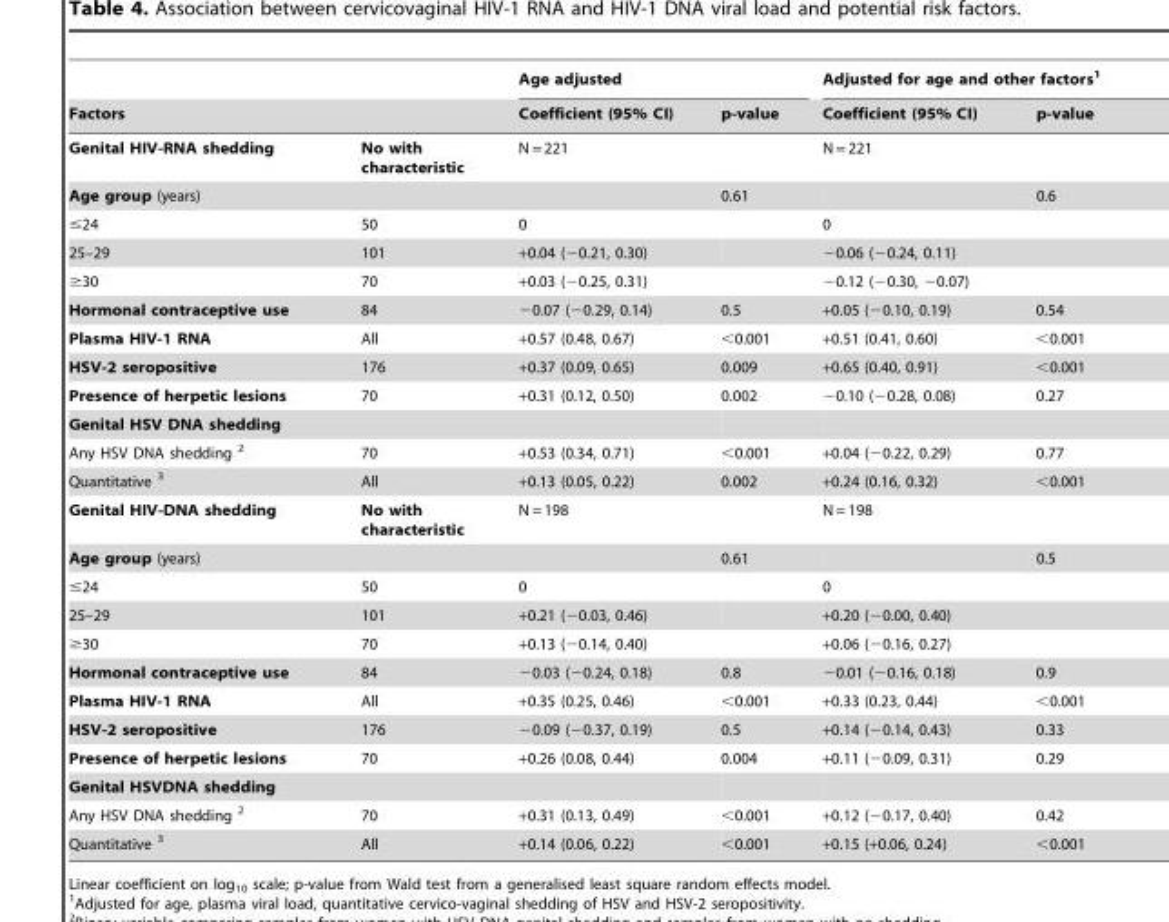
<table><thead><tr><td rowspan="2">Factors</td><td rowspan="2"></td><td colspan="2">Age adjusted</td><td colspan="2">Adjusted for age and other factors<sup>1</sup></td></tr><tr><td>Coefficient (95% CI)</td><td>p-value</td><td>Coefficient (95% CI)</td><td>p-value</td></tr></thead><tbody><tr><td>Genital HIV-RNA shedding</td><td>No with characteristic</td><td>N = 221</td><td></td><td>N = 221</td><td></td></tr><tr><td>Age group (years)</td><td></td><td></td><td>0.61</td><td></td><td>0.6</td></tr><tr><td>≤24</td><td>50</td><td>0</td><td></td><td>0</td><td></td></tr><tr><td>25–29</td><td>101</td><td>+0.04 (−0.21, 0.30)</td><td></td><td>−0.06 (−0.24, 0.11)</td><td></td></tr><tr><td>≥30</td><td>70</td><td>+0.03 (−0.25, 0.31)</td><td></td><td>−0.12 (−0.30, −0.07)</td><td></td></tr><tr><td>Hormonal contraceptive use</td><td>84</td><td>−0.07 (−0.29, 0.14)</td><td>0.5</td><td>+0.05 (−0.10, 0.19)</td><td>0.54</td></tr><tr><td>Plasma HIV-1 RNA</td><td>All</td><td>+0.57 (0.48, 0.67)</td><td>&lt;0.001</td><td>+0.51 (0.41, 0.60)</td><td>&lt;0.001</td></tr><tr><td>HSV-2 seropositive</td><td>176</td><td>+0.37 (0.09, 0.65)</td><td>0.009</td><td>+0.65 (0.40, 0.91)</td><td>&lt;0.001</td></tr><tr><td>Presence of herpetic lesions</td><td>70</td><td>+0.31 (0.12, 0.50)</td><td>0.002</td><td>−0.10 (−0.28, 0.08)</td><td>0.27</td></tr><tr><td colspan="6">Genital HSV DNA shedding</td></tr><tr><td>Any HSV DNA shedding 2</td><td>70</td><td>+0.53 (0.34, 0.71)</td><td>&lt;0.001</td><td>+0.04 (−0.22, 0.29)</td><td>0.77</td></tr><tr><td>Quantitative 3</td><td>All</td><td>+0.13 (0.05, 0.22)</td><td>0.002</td><td>+0.24 (0.16, 0.32)</td><td>&lt;0.001</td></tr><tr><td>Genital HIV-DNA shedding</td><td>No with characteristic</td><td>N = 198</td><td></td><td>N = 198</td><td></td></tr><tr><td>Age group (years)</td><td></td><td></td><td>0.61</td><td></td><td>0.5</td></tr><tr><td>≤24</td><td>50</td><td>0</td><td></td><td>0</td><td></td></tr><tr><td>25–29</td><td>101</td><td>+0.21 (−0.03, 0.46)</td><td></td><td>+0.20 (−0.00, 0.40)</td><td></td></tr><tr><td>≥30</td><td>70</td><td>+0.13 (−0.14, 0.40)</td><td></td><td>+0.06 (−0.16, 0.27)</td><td></td></tr><tr><td>Hormonal contraceptive use</td><td>84</td><td>−0.03 (−0.24, 0.18)</td><td>0.8</td><td>−0.01 (−0.16, 0.18)</td><td>0.9</td></tr><tr><td>Plasma HIV-1 RNA</td><td>All</td><td>+0.35 (0.25, 0.46)</td><td>&lt;0.001</td><td>+0.33 (0.23, 0.44)</td><td>&lt;0.001</td></tr><tr><td>HSV-2 seropositive</td><td>176</td><td>−0.09 (−0.37, 0.19)</td><td>0.5</td><td>+0.14 (−0.14, 0.43)</td><td>0.33</td></tr><tr><td>Presence of herpetic lesions</td><td>70</td><td>+0.26 (0.08, 0.44)</td><td>0.004</td><td>+0.11 (−0.09, 0.31)</td><td>0.29</td></tr><tr><td colspan="6">Genital HSVDNA shedding</td></tr><tr><td>Any HSV DNA shedding 2</td><td>70</td><td>+0.31 (0.13, 0.49)</td><td>&lt;0.001</td><td>+0.12 (−0.17, 0.40)</td><td>0.42</td></tr><tr><td>Quantitative 3</td><td>All</td><td>+0.14 (0.06, 0.22)</td><td>&lt;0.001</td><td>+0.15 (+0.06, 0.24)</td><td>&lt;0.001</td></tr></tbody></table>